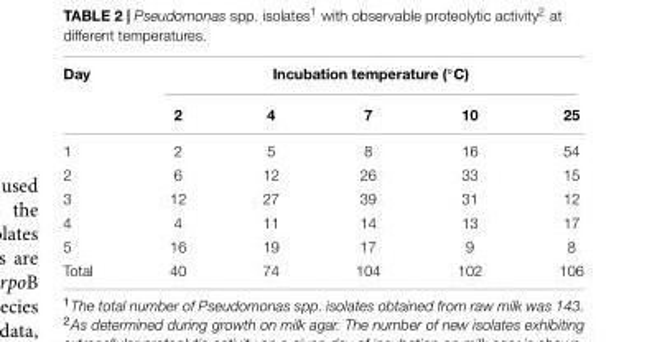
<table><thead><tr><td rowspan="2">Day</td><td colspan="5">Incubation temperature (◦C)</td></tr><tr><td>2</td><td>4</td><td>7</td><td>10</td><td>25</td></tr></thead><tbody><tr><td>1</td><td>2</td><td>5</td><td>8</td><td>16</td><td>54</td></tr><tr><td>2</td><td>6</td><td>12</td><td>26</td><td>33</td><td>15</td></tr><tr><td>3</td><td>12</td><td>27</td><td>39</td><td>31</td><td>12</td></tr><tr><td>4</td><td>4</td><td>11</td><td>14</td><td>13</td><td>17</td></tr><tr><td>5</td><td>16</td><td>19</td><td>17</td><td>9</td><td>8</td></tr><tr><td>Total</td><td>40</td><td>74</td><td>104</td><td>102</td><td>106</td></tr></tbody></table>